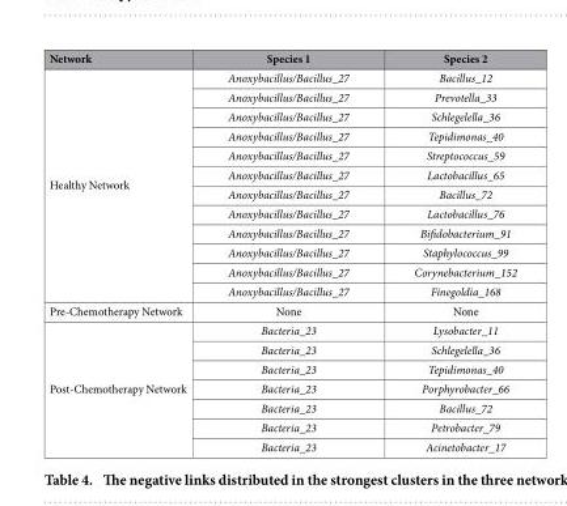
<table><thead><tr><td>Network</td><td>Species 1</td><td>Species 2</td></tr></thead><tbody><tr><td rowspan="12">Healthy Network</td><td>Anoxybacillus/Bacillus_27</td><td>Bacillus_12</td></tr><tr><td>Anoxybacillus/Bacillus_27</td><td>Prevotella_33</td></tr><tr><td>Anoxybacillus/Bacillus_27</td><td>Schlegelella_36</td></tr><tr><td>Anoxybacillus/Bacillus_27</td><td>Tepidimonas_40</td></tr><tr><td>Anoxybacillus/Bacillus_27</td><td>Streptococcus_59</td></tr><tr><td>Anoxybacillus/Bacillus_27</td><td>Lactobacillus_65</td></tr><tr><td>Anoxybacillus/Bacillus_27</td><td>Bacillus_72</td></tr><tr><td>Anoxybacillus/Bacillus_27</td><td>Lactobacillus_76</td></tr><tr><td>Anoxybacillus/Bacillus_27</td><td>Bifidobacterium_91</td></tr><tr><td>Anoxybacillus/Bacillus_27</td><td>Staphylococcus_99</td></tr><tr><td>Anoxybacillus/Bacillus_27</td><td>Corynebacterium_152</td></tr><tr><td>Anoxybacillus/Bacillus_27</td><td>Finegoldia_168</td></tr><tr><td>Pre-Chemotherapy Network</td><td>None</td><td>None</td></tr><tr><td rowspan="7">Post-Chemotherapy Network</td><td>Bacteria_23</td><td>Lysobacter_11</td></tr><tr><td>Bacteria_23</td><td>Schlegelella_36</td></tr><tr><td>Bacteria_23</td><td>Tepidimonas_40</td></tr><tr><td>Bacteria_23</td><td>Porphyrobacter_66</td></tr><tr><td>Bacteria_23</td><td>Bacillus_72</td></tr><tr><td>Bacteria_23</td><td>Petrobacter_79</td></tr><tr><td>Bacteria_23</td><td>Acinetobacter_17</td></tr></tbody></table>